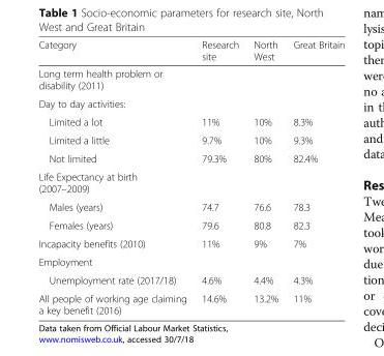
<table><thead><tr><td>Category</td><td>Research site</td><td>North West</td><td>Great Britain</td></tr></thead><tbody><tr><td colspan="4">Long term health problem or disability (2011)</td></tr><tr><td colspan="4">Day to day activities:</td></tr><tr><td>Limited a lot</td><td>11%</td><td>10%</td><td>8.3%</td></tr><tr><td>Limited a little</td><td>9.7%</td><td>10%</td><td>9.3%</td></tr><tr><td>Not limited</td><td>79.3%</td><td>80%</td><td>82.4%</td></tr><tr><td colspan="4">Life Expectancy at birth (2007–2009)</td></tr><tr><td>Males (years)</td><td>74.7</td><td>76.6</td><td>78.3</td></tr><tr><td>Females (years)</td><td>79.6</td><td>80.8</td><td>82.3</td></tr><tr><td>Incapacity benefits (2010)</td><td>11%</td><td>9%</td><td>7%</td></tr><tr><td colspan="4">Employment</td></tr><tr><td>Unemployment rate (2017/18)</td><td>4.6%</td><td>4.4%</td><td>4.3%</td></tr><tr><td>All people of working age claiming a key benefit (2016)</td><td>14.6%</td><td>13.2%</td><td>11%</td></tr></tbody></table>